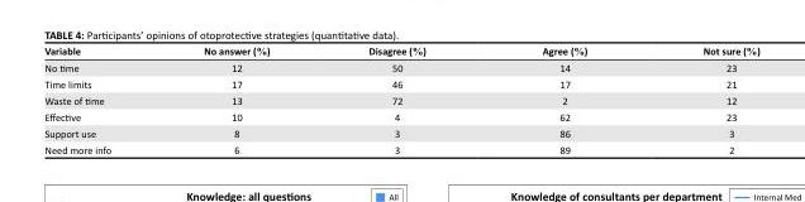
<table><thead><tr><td>Variable</td><td>No answer (%)</td><td>Disagree (%)</td><td>Agree (%)</td><td>Not sure (%)</td></tr></thead><tbody><tr><td>No time</td><td>12</td><td>50</td><td>14</td><td>23</td></tr><tr><td>Time limits</td><td>17</td><td>46</td><td>17</td><td>21</td></tr><tr><td>Waste of time</td><td>13</td><td>72</td><td>2</td><td>12</td></tr><tr><td>Effective</td><td>10</td><td>4</td><td>62</td><td>23</td></tr><tr><td>Support use</td><td>8</td><td>3</td><td>86</td><td>3</td></tr><tr><td>Need more info</td><td>6</td><td>3</td><td>89</td><td>2</td></tr></tbody></table>